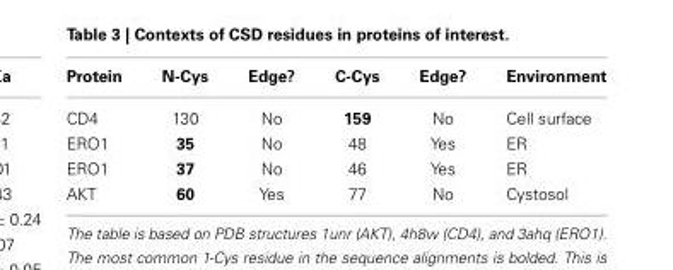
<table><thead><tr><td>Protein</td><td>N-Cys</td><td>Edge?</td><td>C-Cys</td><td>Edge?</td><td>Environment</td></tr></thead><tbody><tr><td>CD4</td><td>130</td><td>No</td><td>159</td><td>No</td><td>Cell surface</td></tr><tr><td>ERO1</td><td>35</td><td>No</td><td>48</td><td>Yes</td><td>ER</td></tr><tr><td>ERO1</td><td>37</td><td>No</td><td>46</td><td>Yes</td><td>ER</td></tr><tr><td>AKT</td><td>60</td><td>Yes</td><td>77</td><td>No</td><td>Cystosol</td></tr></tbody></table>